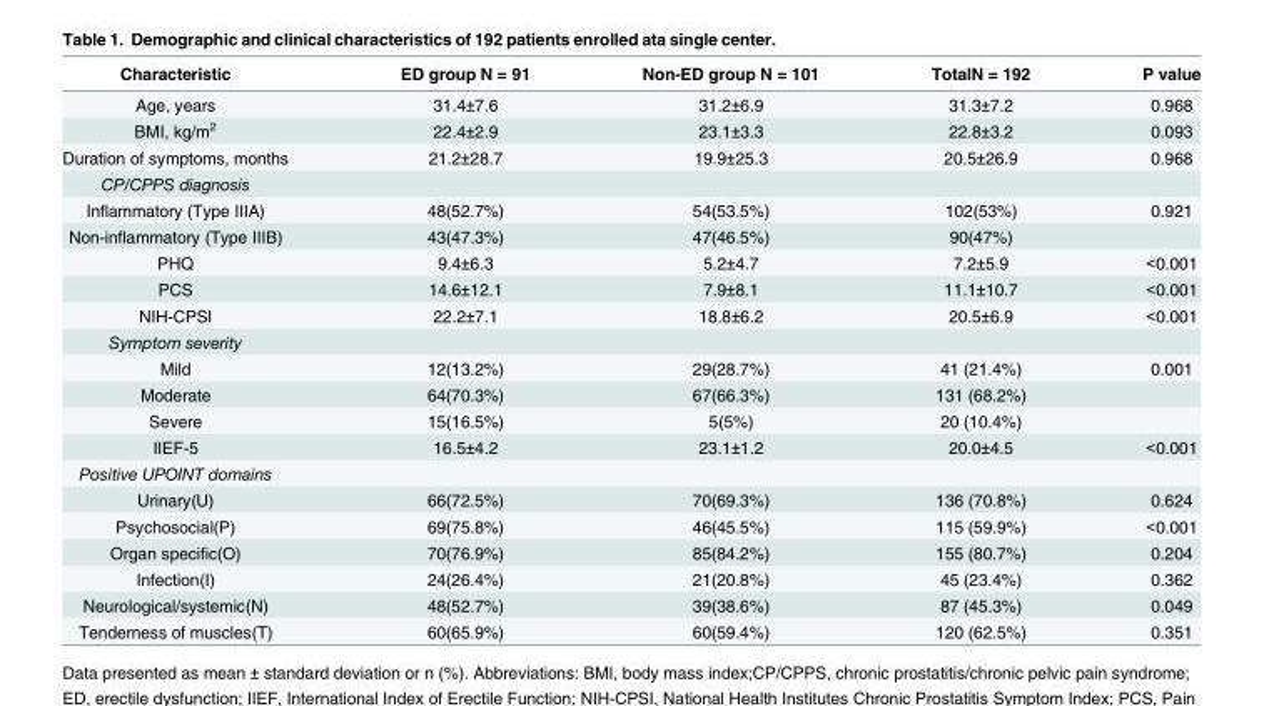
<table><thead><tr><td>Characteristic</td><td>ED group N = 91</td><td>Non-ED group N = 101</td><td>TotalN = 192</td><td>P value</td></tr></thead><tbody><tr><td>Age, years</td><td>31.4±7.6</td><td>31.2±6.9</td><td>31.3±7.2</td><td>0.968</td></tr><tr><td>BMI, kg/m<sup>2</sup></td><td>22.4±2.9</td><td>23.1±3.3</td><td>22.8±3.2</td><td>0.093</td></tr><tr><td>Duration of symptoms, months</td><td>21.2±28.7</td><td>19.9±25.3</td><td>20.5±26.9</td><td>0.968</td></tr><tr><td colspan="5">CP/CPPS diagnosis</td></tr><tr><td>Inflammatory (Type IIIA)</td><td>48(52.7%)</td><td>54(53.5%)</td><td>102(53%)</td><td>0.921</td></tr><tr><td>Non-inflammatory (Type IIIB)</td><td>43(47.3%)</td><td>47(46.5%)</td><td>90(47%)</td><td></td></tr><tr><td>PHQ</td><td>9.4±6.3</td><td>5.2±4.7</td><td>7.2±5.9</td><td>&lt;0.001</td></tr><tr><td>PCS</td><td>14.6±12.1</td><td>7.9±8.1</td><td>11.1±10.7</td><td>&lt;0.001</td></tr><tr><td>NIH-CPSI</td><td>22.2±7.1</td><td>18.8±6.2</td><td>20.5±6.9</td><td>&lt;0.001</td></tr><tr><td colspan="5">Symptom severity</td></tr><tr><td>Mild</td><td>12(13.2%)</td><td>29(28.7%)</td><td>41 (21.4%)</td><td>0.001</td></tr><tr><td>Moderate</td><td>64(70.3%)</td><td>67(66.3%)</td><td>131 (68.2%)</td><td></td></tr><tr><td>Severe</td><td>15(16.5%)</td><td>5(5%)</td><td>20 (10.4%)</td><td></td></tr><tr><td>IIEF-5</td><td>16.5±4.2</td><td>23.1±1.2</td><td>20.0±4.5</td><td>&lt;0.001</td></tr><tr><td colspan="5">Positive UPOINT domains</td></tr><tr><td>Urinary(U)</td><td>66(72.5%)</td><td>70(69.3%)</td><td>136 (70.8%)</td><td>0.624</td></tr><tr><td>Psychosocial(P)</td><td>69(75.8%)</td><td>46(45.5%)</td><td>115 (59.9%)</td><td>&lt;0.001</td></tr><tr><td>Organ specific(O)</td><td>70(76.9%)</td><td>85(84.2%)</td><td>155 (80.7%)</td><td>0.204</td></tr><tr><td>Infection(I)</td><td>24(26.4%)</td><td>21(20.8%)</td><td>45 (23.4%)</td><td>0.362</td></tr><tr><td>Neurological/systemic(N)</td><td>48(52.7%)</td><td>39(38.6%)</td><td>87 (45.3%)</td><td>0.049</td></tr><tr><td>Tenderness of muscles(T)</td><td>60(65.9%)</td><td>60(59.4%)</td><td>120 (62.5%)</td><td>0.351</td></tr></tbody></table>